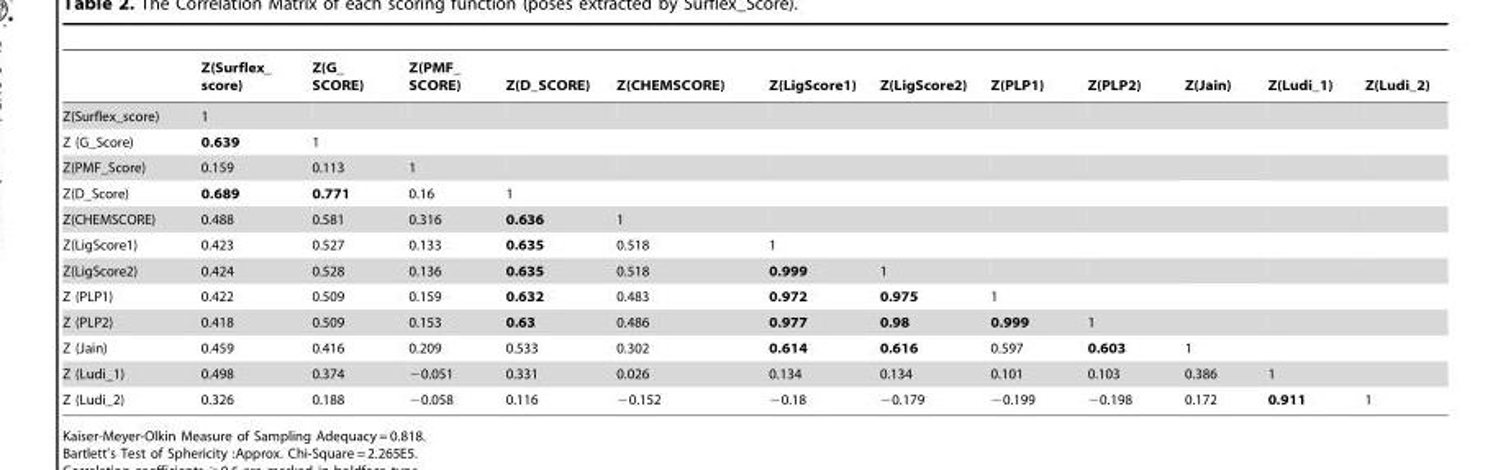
<table><thead><tr><td></td><td>Z(Surflex_ score)</td><td>Z(G_ SCORE)</td><td>Z(PMF_ SCORE)</td><td>Z(D_SCORE)</td><td>Z(CHEMSCORE)</td><td>Z(LigScore1)</td><td>Z(LigScore2)</td><td>Z(PLP1)</td><td>Z(PLP2)</td><td>Z(Jain)</td><td>Z(Ludi_1)</td><td>Z(Ludi_2)</td></tr></thead><tbody><tr><td>Z(Surflex_score)</td><td>1</td><td></td><td></td><td></td><td></td><td></td><td></td><td></td><td></td><td></td><td></td><td></td></tr><tr><td>Z (G_Score)</td><td>0.639</td><td>1</td><td></td><td></td><td></td><td></td><td></td><td></td><td></td><td></td><td></td><td></td></tr><tr><td>Z(PMF_Score)</td><td>0.159</td><td>0.113</td><td>1</td><td></td><td></td><td></td><td></td><td></td><td></td><td></td><td></td><td></td></tr><tr><td>Z(D_Score)</td><td>0.689</td><td>0.771</td><td>0.16</td><td>1</td><td></td><td></td><td></td><td></td><td></td><td></td><td></td><td></td></tr><tr><td>Z(CHEMSCORE)</td><td>0.488</td><td>0.581</td><td>0.316</td><td>0.636</td><td>1</td><td></td><td></td><td></td><td></td><td></td><td></td><td></td></tr><tr><td>Z(LigScore1)</td><td>0.423</td><td>0.527</td><td>0.133</td><td>0.635</td><td>0.518</td><td>1</td><td></td><td></td><td></td><td></td><td></td><td></td></tr><tr><td>Z(LigScore2)</td><td>0.424</td><td>0.528</td><td>0.136</td><td>0.635</td><td>0.518</td><td>0.999</td><td>1</td><td></td><td></td><td></td><td></td><td></td></tr><tr><td>Z (PLP1)</td><td>0.422</td><td>0.509</td><td>0.159</td><td>0.632</td><td>0.483</td><td>0.972</td><td>0.975</td><td>1</td><td></td><td></td><td></td><td></td></tr><tr><td>Z (PLP2)</td><td>0.418</td><td>0.509</td><td>0.153</td><td>0.63</td><td>0.486</td><td>0.977</td><td>0.98</td><td>0.999</td><td>1</td><td></td><td></td><td></td></tr><tr><td>Z (Jain)</td><td>0.459</td><td>0.416</td><td>0.209</td><td>0.533</td><td>0.302</td><td>0.614</td><td>0.616</td><td>0.597</td><td>0.603</td><td>1</td><td></td><td></td></tr><tr><td>Z (Ludi_1)</td><td>0.498</td><td>0.374</td><td>−0.051</td><td>0.331</td><td>0.026</td><td>0.134</td><td>0.134</td><td>0.101</td><td>0.103</td><td>0.386</td><td>1</td><td></td></tr><tr><td>Z (Ludi_2)</td><td>0.326</td><td>0.188</td><td>−0.058</td><td>0.116</td><td>−0.152</td><td>−0.18</td><td>−0.179</td><td>−0.199</td><td>−0.198</td><td>0.172</td><td>0.911</td><td>1</td></tr></tbody></table>